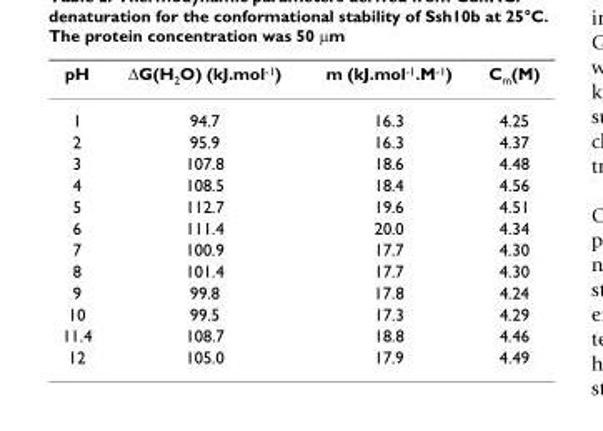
<table><thead><tr><td>pH</td><td>∆G(H2O) (kJ.mol-1)</td><td>m (kJ.mol<sup>-1</sup>.M<sup>-1</sup>)</td><td>C<sub>m</sub>(M)</td></tr></thead><tbody><tr><td>1</td><td>94.7</td><td>16.3</td><td>4.25</td></tr><tr><td>2</td><td>95.9</td><td>16.3</td><td>4.37</td></tr><tr><td>3</td><td>107.8</td><td>18.6</td><td>4.48</td></tr><tr><td>4</td><td>108.5</td><td>18.4</td><td>4.56</td></tr><tr><td>5</td><td>112.7</td><td>19.6</td><td>4.51</td></tr><tr><td>6</td><td>111.4</td><td>20.0</td><td>4.34</td></tr><tr><td>7</td><td>100.9</td><td>17.7</td><td>4.30</td></tr><tr><td>8</td><td>101.4</td><td>17.7</td><td>4.30</td></tr><tr><td>9</td><td>99.8</td><td>17.8</td><td>4.24</td></tr><tr><td>10</td><td>99.5</td><td>17.3</td><td>4.29</td></tr><tr><td>11.4</td><td>108.7</td><td>18.8</td><td>4.46</td></tr><tr><td>12</td><td>105.0</td><td>17.9</td><td>4.49</td></tr></tbody></table>